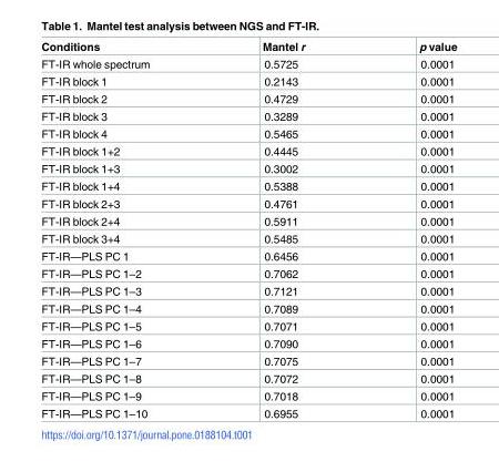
<table><thead><tr><td>Conditions</td><td>Mantel r</td><td>p value</td></tr></thead><tbody><tr><td>FT-IR whole spectrum</td><td>0.5725</td><td>0.0001</td></tr><tr><td>FT-IR block 1</td><td>0.2143</td><td>0.0001</td></tr><tr><td>FT-IR block 2</td><td>0.4729</td><td>0.0001</td></tr><tr><td>FT-IR block 3</td><td>0.3289</td><td>0.0001</td></tr><tr><td>FT-IR block 4</td><td>0.5465</td><td>0.0001</td></tr><tr><td>FT-IR block 1+2</td><td>0.4445</td><td>0.0001</td></tr><tr><td>FT-IR block 1+3</td><td>0.3002</td><td>0.0001</td></tr><tr><td>FT-IR block 1+4</td><td>0.5388</td><td>0.0001</td></tr><tr><td>FT-IR block 2+3</td><td>0.4761</td><td>0.0001</td></tr><tr><td>FT-IR block 2+4</td><td>0.5911</td><td>0.0001</td></tr><tr><td>FT-IR block 3+4</td><td>0.5485</td><td>0.0001</td></tr><tr><td>FT-IR—PLS PC 1</td><td>0.6456</td><td>0.0001</td></tr><tr><td>FT-IR—PLS PC 1–2</td><td>0.7062</td><td>0.0001</td></tr><tr><td>FT-IR—PLS PC 1–3</td><td>0.7121</td><td>0.0001</td></tr><tr><td>FT-IR—PLS PC 1–4</td><td>0.7089</td><td>0.0001</td></tr><tr><td>FT-IR—PLS PC 1–5</td><td>0.7071</td><td>0.0001</td></tr><tr><td>FT-IR—PLS PC 1–6</td><td>0.7090</td><td>0.0001</td></tr><tr><td>FT-IR—PLS PC 1–7</td><td>0.7075</td><td>0.0001</td></tr><tr><td>FT-IR—PLS PC 1–8</td><td>0.7072</td><td>0.0001</td></tr><tr><td>FT-IR—PLS PC 1–9</td><td>0.7018</td><td>0.0001</td></tr><tr><td>FT-IR—PLS PC 1–10</td><td>0.6955</td><td>0.0001</td></tr></tbody></table>